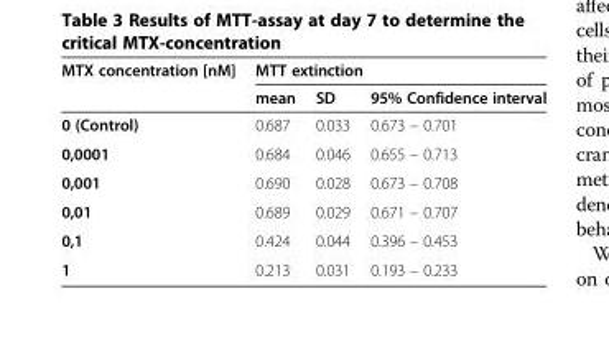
<table><thead><tr><td rowspan="2">MTX concentration [nM]</td><td colspan="3">MTT extinction</td></tr><tr><td>mean</td><td>SD</td><td>95% Confidence interval</td></tr></thead><tbody><tr><td>0 (Control)</td><td>0.687</td><td>0.033</td><td>0.673 – 0.701</td></tr><tr><td>0,0001</td><td>0.684</td><td>0.046</td><td>0.655 – 0.713</td></tr><tr><td>0,001</td><td>0.690</td><td>0.028</td><td>0.673 – 0.708</td></tr><tr><td>0,01</td><td>0.689</td><td>0.029</td><td>0.671 – 0.707</td></tr><tr><td>0,1</td><td>0.424</td><td>0.044</td><td>0.396 – 0.453</td></tr><tr><td>1</td><td>0.213</td><td>0.031</td><td>0.193 – 0.233</td></tr></tbody></table>